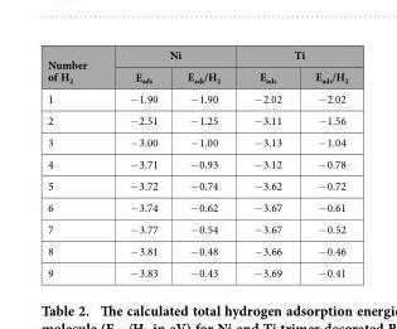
<table><thead><tr><td rowspan="2">Number of H<sub>2</sub></td><td colspan="2">Ni</td><td colspan="2">Ti</td></tr><tr><td>E<sub>ads</sub></td><td>E<sub>ads</sub>/H<sub>2</sub></td><td>E<sub>ads</sub></td><td>E<sub>ads</sub>/H<sub>2</sub></td></tr></thead><tbody><tr><td>1</td><td>− 1.90</td><td>− 1.90</td><td>− 2.02</td><td>− 2.02</td></tr><tr><td>2</td><td>− 2.51</td><td>− 1.25</td><td>− 3.11</td><td>− 1.56</td></tr><tr><td>3</td><td>− 3.00</td><td>− 1.00</td><td>− 3.13</td><td>− 1.04</td></tr><tr><td>4</td><td>− 3.71</td><td>− 0.93</td><td>− 3.12</td><td>− 0.78</td></tr><tr><td>5</td><td>− 3.72</td><td>− 0.74</td><td>− 3.62</td><td>− 0.72</td></tr><tr><td>6</td><td>− 3.74</td><td>− 0.62</td><td>− 3.67</td><td>− 0.61</td></tr><tr><td>7</td><td>− 3.77</td><td>− 0.54</td><td>− 3.67</td><td>− 0.52</td></tr><tr><td>8</td><td>− 3.81</td><td>− 0.48</td><td>− 3.66</td><td>− 0.46</td></tr><tr><td>9</td><td>− 3.83</td><td>− 0.43</td><td>− 3.69</td><td>− 0.41</td></tr></tbody></table>